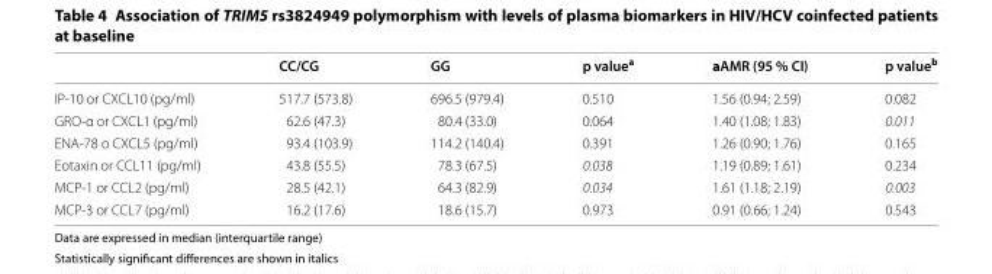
<table><thead><tr><td></td><td>CC/CG</td><td>GG</td><td>p value<sup>a</sup></td><td>aAMR (95 % CI)</td><td>p value<sup>b</sup></td></tr></thead><tbody><tr><td>IP‑10 or CXCL10 (pg/ml)</td><td>517.7 (573.8)</td><td>696.5 (979.4)</td><td>0.510</td><td>1.56 (0.94; 2.59)</td><td>0.082</td></tr><tr><td>GRO‑α or CXCL1 (pg/ml)</td><td>62.6 (47.3)</td><td>80.4 (33.0)</td><td>0.064</td><td>1.40 (1.08; 1.83)</td><td>0.011</td></tr><tr><td>ENA‑78 o CXCL5 (pg/ml)</td><td>93.4 (103.9)</td><td>114.2 (140.4)</td><td>0.391</td><td>1.26 (0.90; 1.76)</td><td>0.165</td></tr><tr><td>Eotaxin or CCL11 (pg/ml)</td><td>43.8 (55.5)</td><td>78.3 (67.5)</td><td>0.038</td><td>1.19 (0.89; 1.61)</td><td>0.234</td></tr><tr><td>MCP‑1 or CCL2 (pg/ml)</td><td>28.5 (42.1)</td><td>64.3 (82.9)</td><td>0.034</td><td>1.61 (1.18; 2.19)</td><td>0.003</td></tr><tr><td>MCP‑3 or CCL7 (pg/ml)</td><td>16.2 (17.6)</td><td>18.6 (15.7)</td><td>0.973</td><td>0.91 (0.66; 1.24)</td><td>0.543</td></tr></tbody></table>